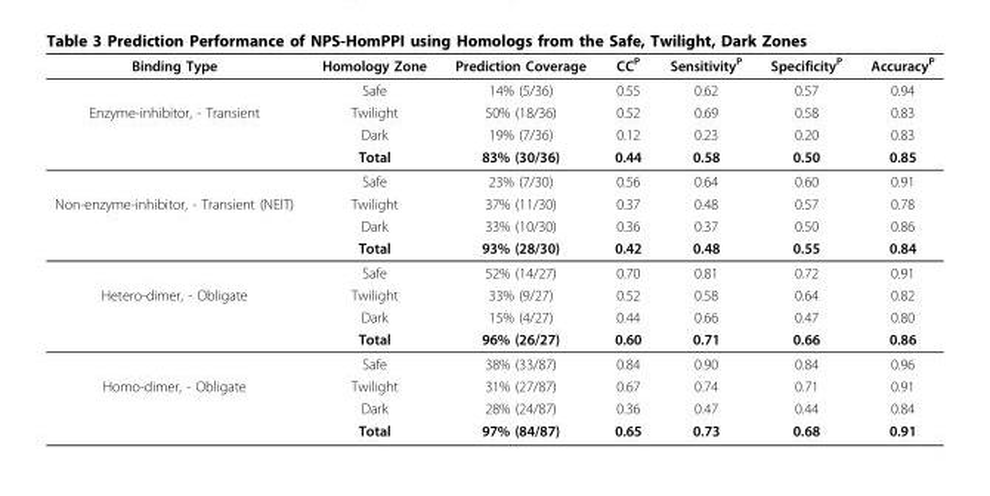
<table><thead><tr><td>Binding Type</td><td>Homology Zone</td><td>Prediction Coverage</td><td>CC<sup>P</sup></td><td>Sensitivity<sup>P</sup></td><td>Specificity<sup>P</sup></td><td>Accuracy<sup>P</sup></td></tr></thead><tbody><tr><td></td><td>Safe</td><td>14% (5/36)</td><td>0.55</td><td>0.62</td><td>0.57</td><td>0.94</td></tr><tr><td rowspan="4">Enzyme-inhibitor, - Transient</td><td>Twilight</td><td>50% (18/36)</td><td>0.52</td><td>0.69</td><td>0.58</td><td>0.83</td></tr><tr><td>Dark</td><td>19% (7/36)</td><td>0.12</td><td>0.23</td><td>0.20</td><td>0.83</td></tr><tr><td>Total</td><td>83% (30/36)</td><td>0.44</td><td>0.58</td><td>0.50</td><td>0.85</td></tr><tr><td>Safe</td><td>23% (7/30)</td><td>0.56</td><td>0.64</td><td>0.60</td><td>0.91</td></tr><tr><td rowspan="4">Non-enzyme-inhibitor, - Transient (NEIT)</td><td>Twilight</td><td>37% (11/30)</td><td>0.37</td><td>0.48</td><td>0.57</td><td>0.78</td></tr><tr><td>Dark</td><td>33% (10/30)</td><td>0.36</td><td>0.37</td><td>0.50</td><td>0.86</td></tr><tr><td>Total</td><td>93% (28/30)</td><td>0.42</td><td>0.48</td><td>0.55</td><td>0.84</td></tr><tr><td>Safe</td><td>52% (14/27)</td><td>0.70</td><td>0.81</td><td>0.72</td><td>0.91</td></tr><tr><td rowspan="4">Hetero-dimer, - Obligate</td><td>Twilight</td><td>33% (9/27)</td><td>0.52</td><td>0.58</td><td>0.64</td><td>0.82</td></tr><tr><td>Dark</td><td>15% (4/27)</td><td>0.44</td><td>0.66</td><td>0.47</td><td>0.80</td></tr><tr><td>Total</td><td>96% (26/27)</td><td>0.60</td><td>0.71</td><td>0.66</td><td>0.86</td></tr><tr><td>Safe</td><td>38% (33/87)</td><td>0.84</td><td>0.90</td><td>0.84</td><td>0.96</td></tr><tr><td rowspan="3">Homo-dimer, - Obligate</td><td>Twilight</td><td>31% (27/87)</td><td>0.67</td><td>0.74</td><td>0.71</td><td>0.91</td></tr><tr><td>Dark</td><td>28% (24/87)</td><td>0.36</td><td>0.47</td><td>0.44</td><td>0.84</td></tr><tr><td>Total</td><td>97% (84/87)</td><td>0.65</td><td>0.73</td><td>0.68</td><td>0.91</td></tr></tbody></table>